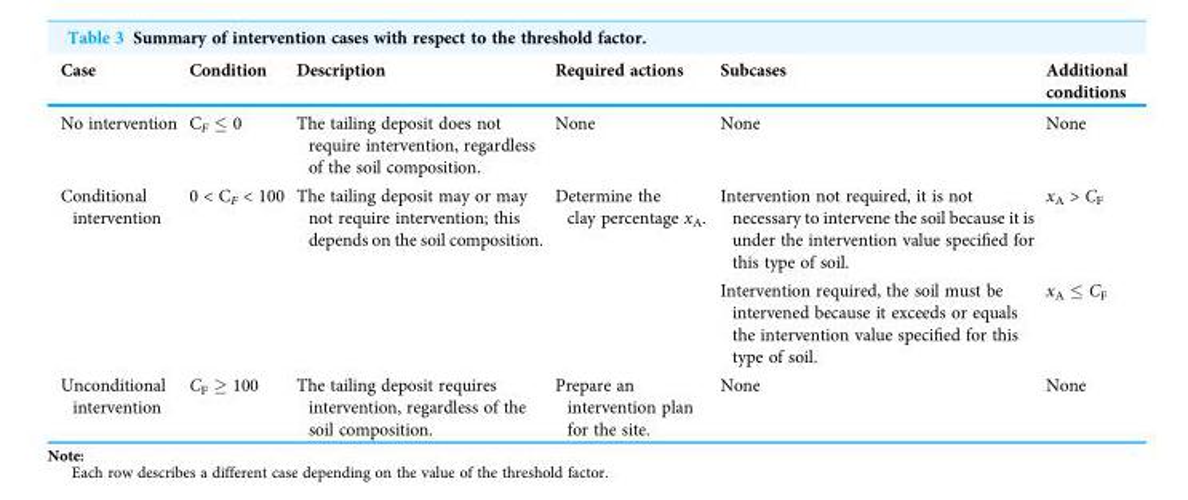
<table><thead><tr><td>Case</td><td>Condition</td><td>Description</td><td>Required actions</td><td>Subcases</td><td>Additional conditions</td></tr></thead><tbody><tr><td>No intervention</td><td>C<sub>F</sub> ≤ 0</td><td>The tailing deposit does not require intervention, regardless of the soil composition.</td><td>None</td><td>None</td><td>None</td></tr><tr><td rowspan="2">Conditional intervention</td><td rowspan="2">0 &lt; C<sub>F</sub> &lt; 100</td><td rowspan="2">The tailing deposit may or may not require intervention; this depends on the soil composition.</td><td rowspan="2">Determine the clay percentage x<sub>A</sub>.</td><td>Intervention not required, it is not necessary to intervene the soil because it is under the intervention value specified for this type of soil.</td><td>x<sub>A</sub> &gt; C<sub>F</sub></td></tr><tr><td>Intervention required, the soil must be intervened because it exceeds or equals the intervention value specified for this type of soil.</td><td>x<sub>A</sub> ≤ C<sub>F</sub></td></tr><tr><td>Unconditional intervention</td><td>C<sub>F</sub> ≥ 100</td><td>The tailing deposit requires intervention, regardless of the soil composition.</td><td>Prepare an intervention plan for the site.</td><td>None</td><td>None</td></tr></tbody></table>